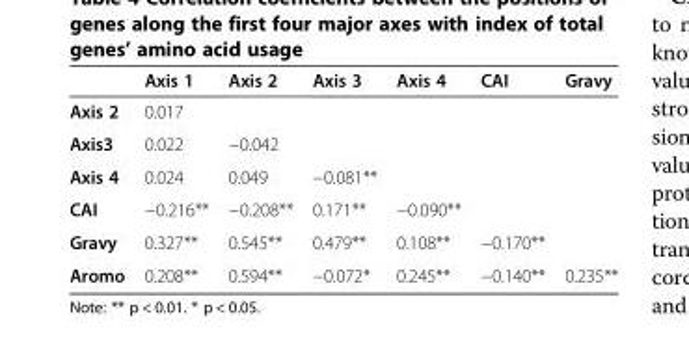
<table><thead><tr><td></td><td>Axis 1</td><td>Axis 2</td><td>Axis 3</td><td>Axis 4</td><td>CAI</td><td>Gravy</td></tr></thead><tbody><tr><td>Axis 2</td><td>0.017</td><td></td><td></td><td></td><td></td><td></td></tr><tr><td>Axis3</td><td>0.022</td><td>−0.042</td><td></td><td></td><td></td><td></td></tr><tr><td>Axis 4</td><td>0.024</td><td>0.049</td><td>−0.081**</td><td></td><td></td><td></td></tr><tr><td>CAI</td><td>−0.216**</td><td>−0.208**</td><td>0.171**</td><td>−0.090**</td><td></td><td></td></tr><tr><td>Gravy</td><td>0.327**</td><td>0.545**</td><td>0.479**</td><td>0.108**</td><td>−0.170**</td><td></td></tr><tr><td>Aromo</td><td>0.208**</td><td>0.594**</td><td>−0.072*</td><td>0.245**</td><td>−0.140**</td><td>0.235**</td></tr></tbody></table>